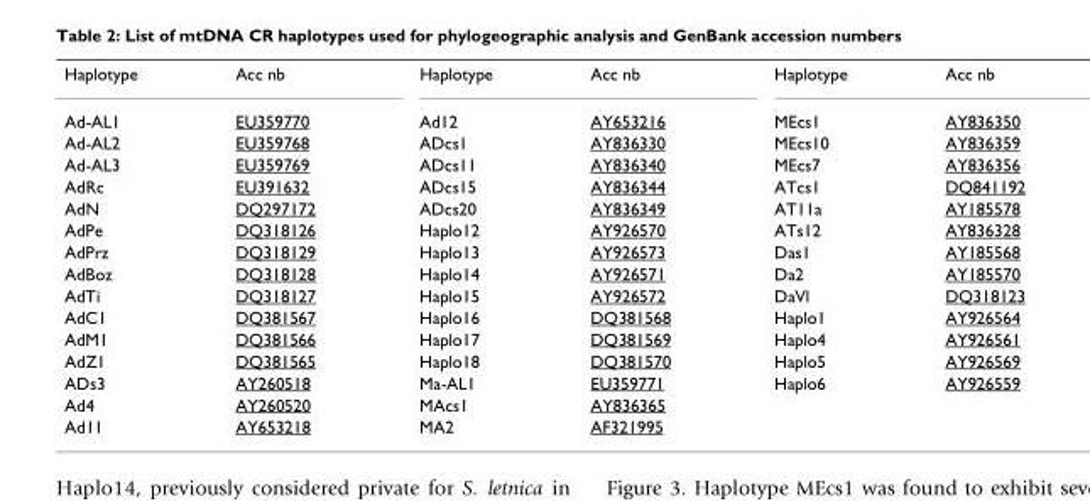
<table><tbody><tr><td>Haplotype</td><td>Acc nb</td><td>Haplotype</td><td>Acc nb</td><td>Haplotype</td><td>Acc nb</td></tr><tr><td>Ad-AL1</td><td>EU359770</td><td>Ad12</td><td>AY653216</td><td>MEcs1</td><td>AY836350</td></tr><tr><td>Ad-AL2</td><td>EU359768</td><td>ADcs1</td><td>AY836330</td><td>MEcs10</td><td>AY836359</td></tr><tr><td>Ad-AL3</td><td>EU359769</td><td>ADcs11</td><td>AY836340</td><td>MEcs7</td><td>AY836356</td></tr><tr><td>AdRc</td><td>EU391632</td><td>ADcs15</td><td>AY836344</td><td>ATcs1</td><td>DQ841192</td></tr><tr><td>AdN</td><td>DQ297172</td><td>ADcs20</td><td>AY836349</td><td>AT11a</td><td>AY185578</td></tr><tr><td>AdPe</td><td>DQ318126</td><td>Haplo12</td><td>AY926570</td><td>ATs12</td><td>AY836328</td></tr><tr><td>AdPrz</td><td>DQ318129</td><td>Haplo13</td><td>AY926573</td><td>Das1</td><td>AY185568</td></tr><tr><td>AdBoz</td><td>DQ318128</td><td>Haplo14</td><td>AY926571</td><td>Da2</td><td>AY185570</td></tr><tr><td>AdTi</td><td>DQ318127</td><td>Haplo15</td><td>AY926572</td><td>DaVl</td><td>DQ318123</td></tr><tr><td>AdC1</td><td>DQ381567</td><td>Haplo16</td><td>DQ381568</td><td>Haplo1</td><td>AY926564</td></tr><tr><td>AdM1</td><td>DQ381566</td><td>Haplo17</td><td>DQ381569</td><td>Haplo4</td><td>AY926561</td></tr><tr><td>AdZ1</td><td>DQ381565</td><td>Haplo18</td><td>DQ381570</td><td>Haplo5</td><td>AY926569</td></tr><tr><td>ADs3</td><td>AY260518</td><td>Ma-AL1</td><td>EU359771</td><td>Haplo6</td><td>AY926559</td></tr><tr><td>Ad4</td><td>AY260520</td><td>MAcs1</td><td>AY836365</td><td></td><td></td></tr><tr><td>Ad11</td><td>AY653218</td><td>MA2</td><td>AF321995</td><td></td><td></td></tr></tbody></table>